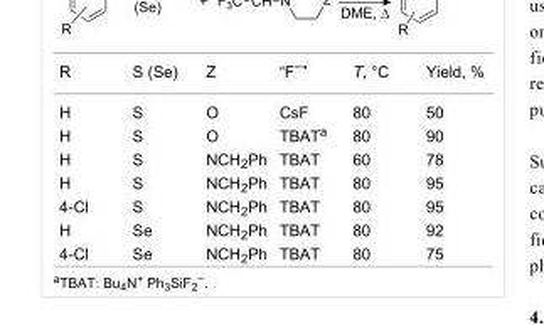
<table><tbody><tr><td>R</td><td>S (Se)</td><td>Z</td><td>“F<sup>−</sup>”</td><td>T, °C</td><td>Yield, %</td></tr><tr><td>H</td><td>S</td><td>O</td><td>CsF</td><td>80</td><td>50</td></tr><tr><td>H</td><td>S</td><td>O</td><td>TBAT<sup>a</sup></td><td>80</td><td>90</td></tr><tr><td>H</td><td>S</td><td>NCH<sub>2</sub>Ph</td><td>TBAT</td><td>60</td><td>78</td></tr><tr><td>H</td><td>S</td><td>NCH<sub>2</sub>Ph</td><td>TBAT</td><td>80</td><td>95</td></tr><tr><td>4-Cl</td><td>S</td><td>NCH<sub>2</sub>Ph</td><td>TBAT</td><td>80</td><td>95</td></tr><tr><td>H</td><td>Se</td><td>NCH<sub>2</sub>Ph</td><td>TBAT</td><td>80</td><td>92</td></tr><tr><td>4-Cl</td><td>Se</td><td>NCH<sub>2</sub>Ph</td><td>TBAT</td><td>80</td><td>75</td></tr></tbody></table>